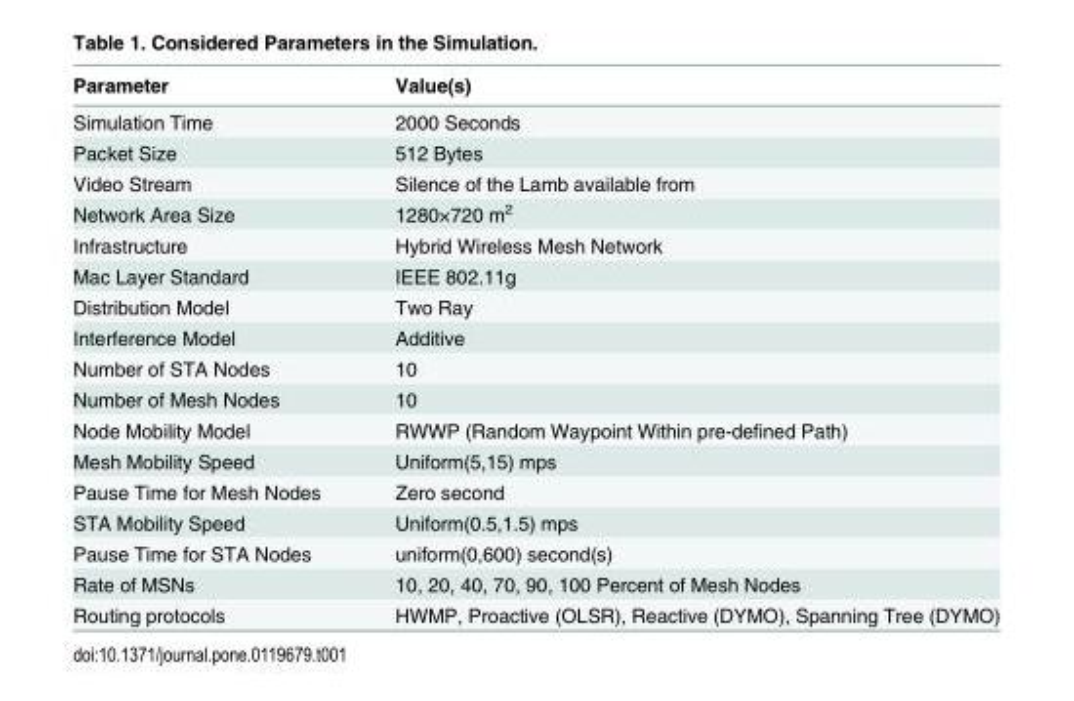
<table><thead><tr><td>Parameter</td><td>Value(s)</td></tr></thead><tbody><tr><td>Simulation Time</td><td>2000 Seconds</td></tr><tr><td>Packet Size</td><td>512 Bytes</td></tr><tr><td>Video Stream</td><td>Silence of the Lamb available from</td></tr><tr><td>Network Area Size</td><td>1280×720 m<sup>2</sup></td></tr><tr><td>Infrastructure</td><td>Hybrid Wireless Mesh Network</td></tr><tr><td>Mac Layer Standard</td><td>IEEE 802.11g</td></tr><tr><td>Distribution Model</td><td>Two Ray</td></tr><tr><td>Interference Model</td><td>Additive</td></tr><tr><td>Number of STA Nodes</td><td>10</td></tr><tr><td>Number of Mesh Nodes</td><td>10</td></tr><tr><td>Node Mobility Model</td><td>RWWP (Random Waypoint Within pre-defined Path)</td></tr><tr><td>Mesh Mobility Speed</td><td>Uniform(5,15) mps</td></tr><tr><td>Pause Time for Mesh Nodes</td><td>Zero second</td></tr><tr><td>STA Mobility Speed</td><td>Uniform(0.5,1.5) mps</td></tr><tr><td>Pause Time for STA Nodes</td><td>uniform(0,600) second(s)</td></tr><tr><td>Rate of MSNs</td><td>10, 20, 40, 70, 90, 100 Percent of Mesh Nodes</td></tr><tr><td>Routing protocols</td><td>HWMP, Proactive (OLSR), Reactive (DYMO), Spanning Tree (DYMO)</td></tr></tbody></table>